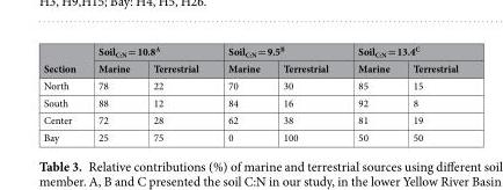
<table><thead><tr><td rowspan="2">Section</td><td colspan="2">Soil<sub>C:N</sub> = 10.8<sup>A</sup></td><td colspan="2">Soil<sub>C:N</sub> = 9.5<sup>B</sup></td><td colspan="2">Soil<sub>C:N</sub> = 13.4<sup>C</sup></td></tr><tr><td>Marine</td><td>Terrestrial</td><td>Marine</td><td>Terrestrial</td><td>Marine</td><td>Terrestrial</td></tr></thead><tbody><tr><td>North</td><td>78</td><td>22</td><td>70</td><td>30</td><td>85</td><td>15</td></tr><tr><td>South</td><td>88</td><td>12</td><td>84</td><td>16</td><td>92</td><td>8</td></tr><tr><td>Center</td><td>72</td><td>28</td><td>62</td><td>38</td><td>81</td><td>19</td></tr><tr><td>Bay</td><td>25</td><td>75</td><td>0</td><td>100</td><td>50</td><td>50</td></tr></tbody></table>